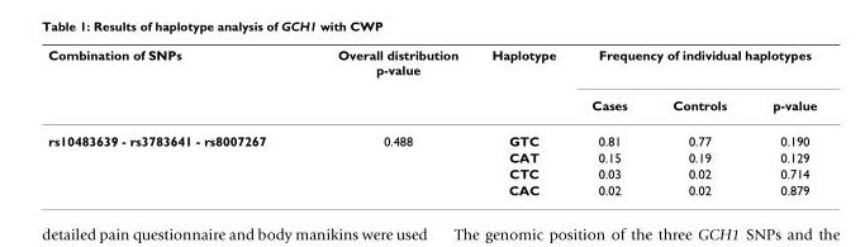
<table><thead><tr><td rowspan="2">Combination of SNPs</td><td rowspan="2">Overall distribution p-value</td><td rowspan="2">Haplotype</td><td colspan="3">Frequency of individual haplotypes</td></tr><tr><td>Cases</td><td>Controls</td><td>p-value</td></tr></thead><tbody><tr><td rowspan="4">rs10483639 - rs3783641 - rs8007267</td><td>0.488</td><td>GTC</td><td>0.81</td><td>0.77</td><td>0.190</td></tr><tr><td></td><td>CAT</td><td>0.15</td><td>0.19</td><td>0.129</td></tr><tr><td></td><td>CTC</td><td>0.03</td><td>0.02</td><td>0.714</td></tr><tr><td></td><td>CAC</td><td>0.02</td><td>0.02</td><td>0.879</td></tr></tbody></table>